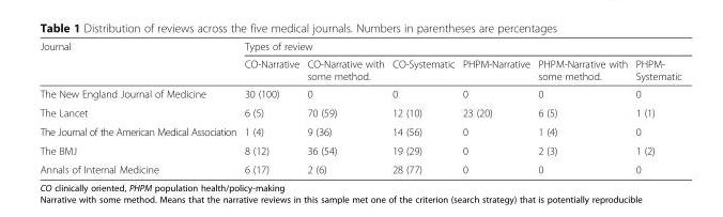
<table><thead><tr><td rowspan="2">Journal</td><td colspan="6">Types of review</td></tr><tr><td>CO-Narrative</td><td>CO-Narrative with some method.</td><td>CO-Systematic</td><td>PHPM-Narrative</td><td>PHPM-Narrative with some method.</td><td>PHPM- Systematic</td></tr></thead><tbody><tr><td>The New England Journal of Medicine</td><td>30 (100)</td><td>0</td><td>0</td><td>0</td><td>0</td><td>0</td></tr><tr><td>The Lancet</td><td>6 (5)</td><td>70 (59)</td><td>12 (10)</td><td>23 (20)</td><td>6 (5)</td><td>1 (1)</td></tr><tr><td>The Journal of the American Medical Association</td><td>1 (4)</td><td>9 (36)</td><td>14 (56)</td><td>0</td><td>1 (4)</td><td>0</td></tr><tr><td>The BMJ</td><td>8 (12)</td><td>36 (54)</td><td>19 (29)</td><td>0</td><td>2 (3)</td><td>1 (2)</td></tr><tr><td>Annals of Internal Medicine</td><td>6 (17)</td><td>2 (6)</td><td>28 (77)</td><td>0</td><td>0</td><td>0</td></tr></tbody></table>